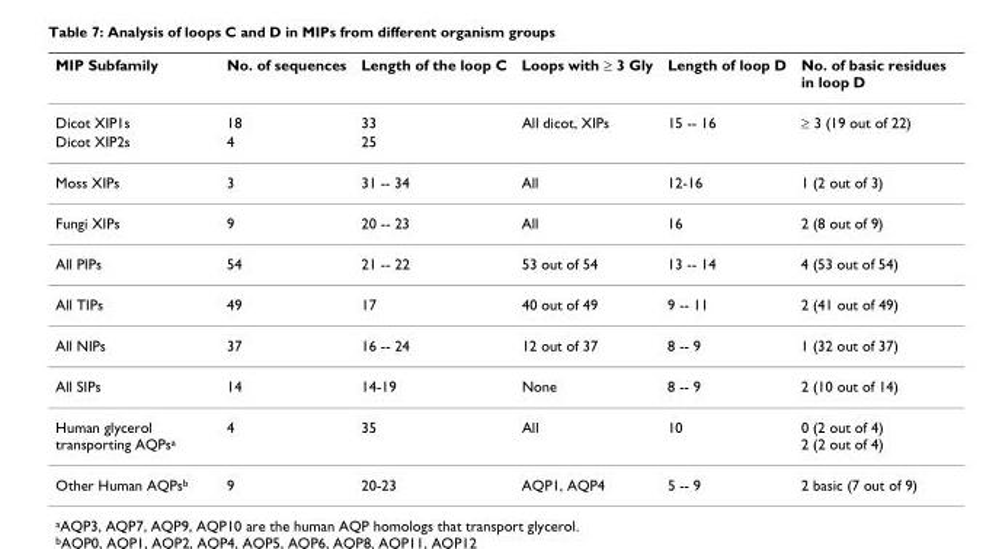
<table><thead><tr><td>MIP Subfamily</td><td>No. of sequences</td><td>Length of the loop C</td><td>Loops with ≥ 3 Gly</td><td>Length of loop D</td><td>No. of basic residues in loop D</td></tr></thead><tbody><tr><td>Dicot XIP1s</td><td>18</td><td>33</td><td>All dicot, XIPs</td><td>15 -- 16</td><td>≥ 3 (19 out of 22)</td></tr><tr><td>Dicot XIP2s</td><td>4</td><td>25</td><td></td><td></td><td></td></tr><tr><td>Moss XIPs</td><td>3</td><td>31 -- 34</td><td>All</td><td>12-16</td><td>1 (2 out of 3)</td></tr><tr><td>Fungi XIPs</td><td>9</td><td>20 -- 23</td><td>All</td><td>16</td><td>2 (8 out of 9)</td></tr><tr><td>All PIPs</td><td>54</td><td>21 -- 22</td><td>53 out of 54</td><td>13 -- 14</td><td>4 (53 out of 54)</td></tr><tr><td>All TIPs</td><td>49</td><td>17</td><td>40 out of 49</td><td>9 -- 11</td><td>2 (41 out of 49)</td></tr><tr><td>All NIPs</td><td>37</td><td>16 -- 24</td><td>12 out of 37</td><td>8 -- 9</td><td>1 (32 out of 37)</td></tr><tr><td>All SIPs</td><td>14</td><td>14-19</td><td>None</td><td>8 -- 9</td><td>2 (10 out of 14)</td></tr><tr><td>Human glycerol transporting AQPs<sup>a</sup></td><td>4</td><td>35</td><td>All</td><td>10</td><td>0 (2 out of 4) 2 (2 out of 4)</td></tr><tr><td>Other Human AQPs<sup>b</sup></td><td>9</td><td>20-23</td><td>AQP1, AQP4</td><td>5 -- 9</td><td>2 basic (7 out of 9)</td></tr></tbody></table>